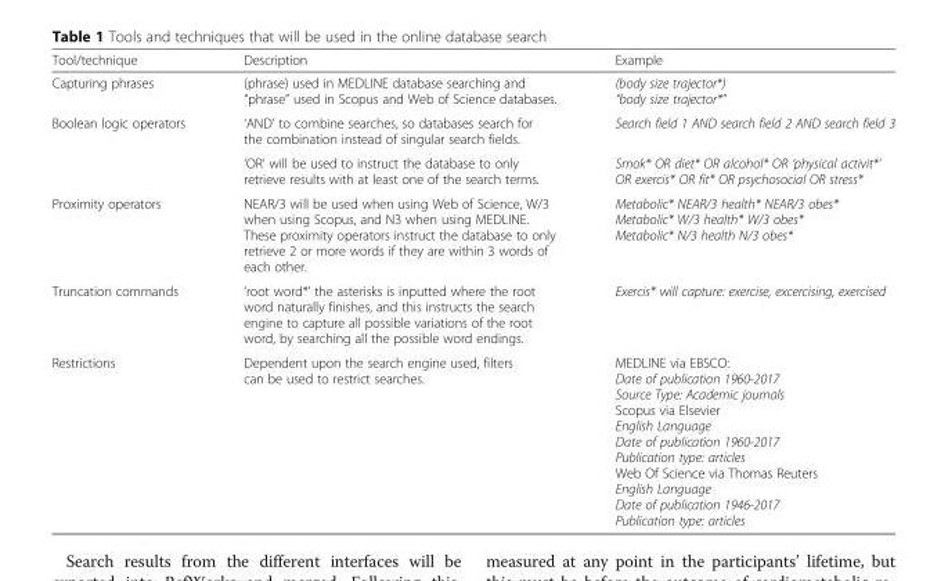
<table><thead><tr><td>Tool/technique</td><td>Description</td><td>Example</td></tr></thead><tbody><tr><td>Capturing phrases</td><td>(phrase) used in MEDLINE database searching and “phrase” used in Scopus and Web of Science databases.</td><td>(body size trajector*) “body size trajector*”</td></tr><tr><td rowspan="2">Boolean logic operators</td><td>‘AND’ to combine searches, so databases search for the combination instead of singular search fields.</td><td>Search field 1 AND search field 2 AND search field 3</td></tr><tr><td>‘OR’ will be used to instruct the database to only retrieve results with at least one of the search terms.</td><td>Smok* OR diet* OR alcohol* OR ‘physical activit*’ OR exercis* OR fit* OR psychosocial OR stress*</td></tr><tr><td>Proximity operators</td><td>NEAR/3 will be used when using Web of Science, W/3 when using Scopus, and N3 when using MEDLINE. These proximity operators instruct the database to only retrieve 2 or more words if they are within 3 words of each other.</td><td>Metabolic* NEAR/3 health* NEAR/3 obes* Metabolic* W/3 health* W/3 obes* Metabolic* N/3 health N/3 obes*</td></tr><tr><td>Truncation commands</td><td>‘root word*’ the asterisks is inputted where the root word naturally finishes, and this instructs the search engine to capture all possible variations of the root word, by searching all the possible word endings.</td><td>Exercis* will capture: exercise, excercising, exercised</td></tr><tr><td>Restrictions</td><td>Dependent upon the search engine used, filters can be used to restrict searches.</td><td>MEDLINE via EBSCO: Date of publication 1960-2017 Source Type: Academic journals Scopus via Elsevier English Language Date of publication 1960-2017 Publication type: articles Web Of Science via Thomas Reuters English Language Date of publication 1946-2017 Publication type: articles</td></tr></tbody></table>